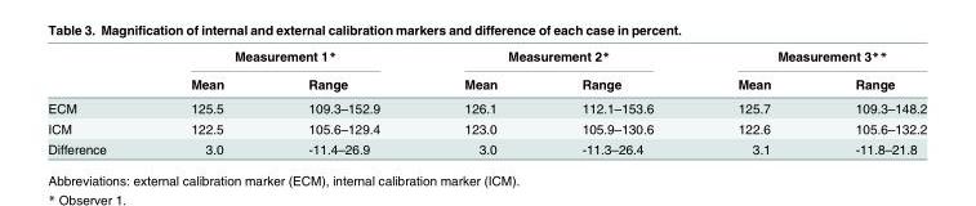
<table><thead><tr><td rowspan="2"></td><td colspan="2">Measurement 1*</td><td colspan="2">Measurement 2*</td><td colspan="2">Measurement 3**</td></tr><tr><td>Mean</td><td>Range</td><td>Mean</td><td>Range</td><td>Mean</td><td>Range</td></tr></thead><tbody><tr><td>ECM</td><td>125.5</td><td>109.3–152.9</td><td>126.1</td><td>112.1–153.6</td><td>125.7</td><td>109.3–148.2</td></tr><tr><td>ICM</td><td>122.5</td><td>105.6–129.4</td><td>123.0</td><td>105.9–130.6</td><td>122.6</td><td>105.6–132.2</td></tr><tr><td>Difference</td><td>3.0</td><td>-11.4–26.9</td><td>3.0</td><td>-11.3–26.4</td><td>3.1</td><td>-11.8–21.8</td></tr></tbody></table>